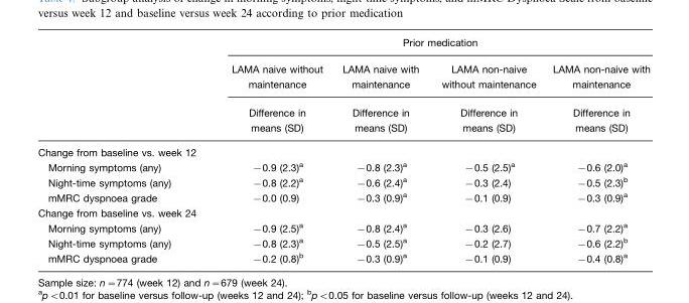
<table><thead><tr><td rowspan="3"></td><td colspan="4">Prior medication</td></tr><tr><td rowspan="2">LAMA naive without maintenance Difference in means (SD)</td><td rowspan="2">LAMA naive with maintenance Difference in means (SD)</td><td rowspan="2">LAMA non-naive without maintenance Difference in means (SD)</td><td rowspan="2">LAMA non-naive with maintenance Difference in means (SD)</td></tr><tr></tr></thead><tbody><tr><td colspan="5">Change from baseline vs. week 12</td></tr><tr><td>Morning symptoms (any)</td><td>−0.9 (2.3)<sup>a</sup></td><td>−0.8 (2.3)<sup>a</sup></td><td>−0.5 (2.5)<sup>a</sup></td><td>−0.6 (2.0)<sup>a</sup></td></tr><tr><td>Night-time symptoms (any)</td><td>−0.8 (2.2)<sup>a</sup></td><td>−0.6 (2.4)<sup>a</sup></td><td>−0.3 (2.4)</td><td>−0.5 (2.3)<sup>b</sup></td></tr><tr><td>mMRC dyspnoea grade</td><td>−0.0 (0.9)</td><td>−0.3 (0.9)<sup>a</sup></td><td>−0.1 (0.9)</td><td>−0.3 (0.9)<sup>a</sup></td></tr><tr><td colspan="5">Change from baseline vs. week 24</td></tr><tr><td>Morning symptoms (any)</td><td>−0.9 (2.5)<sup>a</sup></td><td>−0.8 (2.4)<sup>a</sup></td><td>−0.3 (2.6)</td><td>−0.7 (2.2)<sup>a</sup></td></tr><tr><td>Night-time symptoms (any)</td><td>−0.8 (2.3)<sup>a</sup></td><td>−0.5 (2.5)<sup>a</sup></td><td>−0.2 (2.7)</td><td>−0.6 (2.2)<sup>b</sup></td></tr><tr><td>mMRC dyspnoea grade</td><td>−0.2 (0.8)<sup>b</sup></td><td>−0.3 (0.9)<sup>a</sup></td><td>−0.1 (0.9)</td><td>−0.4 (0.8)<sup>a</sup></td></tr></tbody></table>